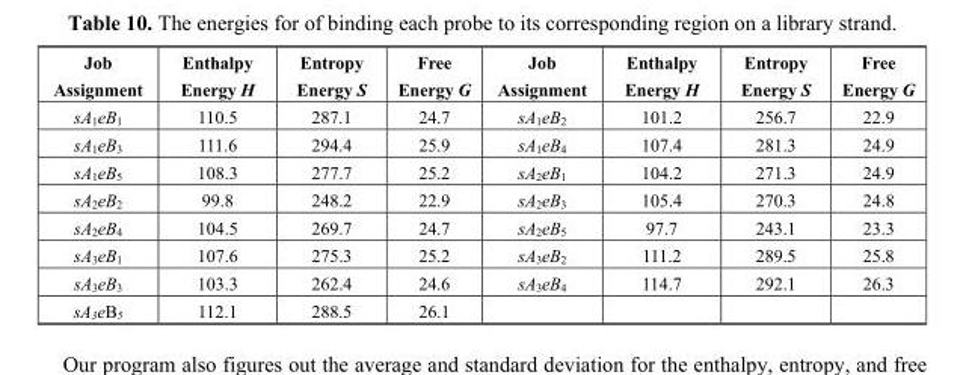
<table><thead><tr><td>Job Assignment</td><td>Enthalpy Energy H</td><td>Entropy Energy S</td><td>Free Energy G</td><td>Job Assignment</td><td>Enthalpy Energy H</td><td>Entropy Energy S</td><td>Free Energy G</td></tr></thead><tbody><tr><td>sA<sub>1</sub>eB<sub>1</sub></td><td>110.5</td><td>287.1</td><td>24.7</td><td>sA<sub>1</sub>eB<sub>2</sub></td><td>101.2</td><td>256.7</td><td>22.9</td></tr><tr><td>sA<sub>1</sub>eB<sub>3</sub></td><td>111.6</td><td>294.4</td><td>25.9</td><td>sA<sub>1</sub>eB<sub>4</sub></td><td>107.4</td><td>281.3</td><td>24.9</td></tr><tr><td>sA<sub>1</sub>eB<sub>5</sub></td><td>108.3</td><td>277.7</td><td>25.2</td><td>sA<sub>2</sub>eB<sub>1</sub></td><td>104.2</td><td>271.3</td><td>24.9</td></tr><tr><td>sA<sub>2</sub>eB<sub>2</sub></td><td>99.8</td><td>248.2</td><td>22.9</td><td>sA<sub>2</sub>eB<sub>3</sub></td><td>105.4</td><td>270.3</td><td>24.8</td></tr><tr><td>sA<sub>2</sub>eB<sub>4</sub></td><td>104.5</td><td>269.7</td><td>24.7</td><td>sA<sub>2</sub>eB<sub>5</sub></td><td>97.7</td><td>243.1</td><td>23.3</td></tr><tr><td>sA<sub>3</sub>eB<sub>1</sub></td><td>107.6</td><td>275.3</td><td>25.2</td><td>sA<sub>3</sub>eB<sub>2</sub></td><td>111.2</td><td>289.5</td><td>25.8</td></tr><tr><td>sA<sub>3</sub>eB<sub>3</sub></td><td>103.3</td><td>262.4</td><td>24.6</td><td>sA<sub>3</sub>eB<sub>4</sub></td><td>114.7</td><td>292.1</td><td>26.3</td></tr><tr><td>sA<sub>3</sub>eB<sub>5</sub></td><td>112.1</td><td>288.5</td><td>26.1</td><td></td><td></td><td></td><td></td></tr></tbody></table>